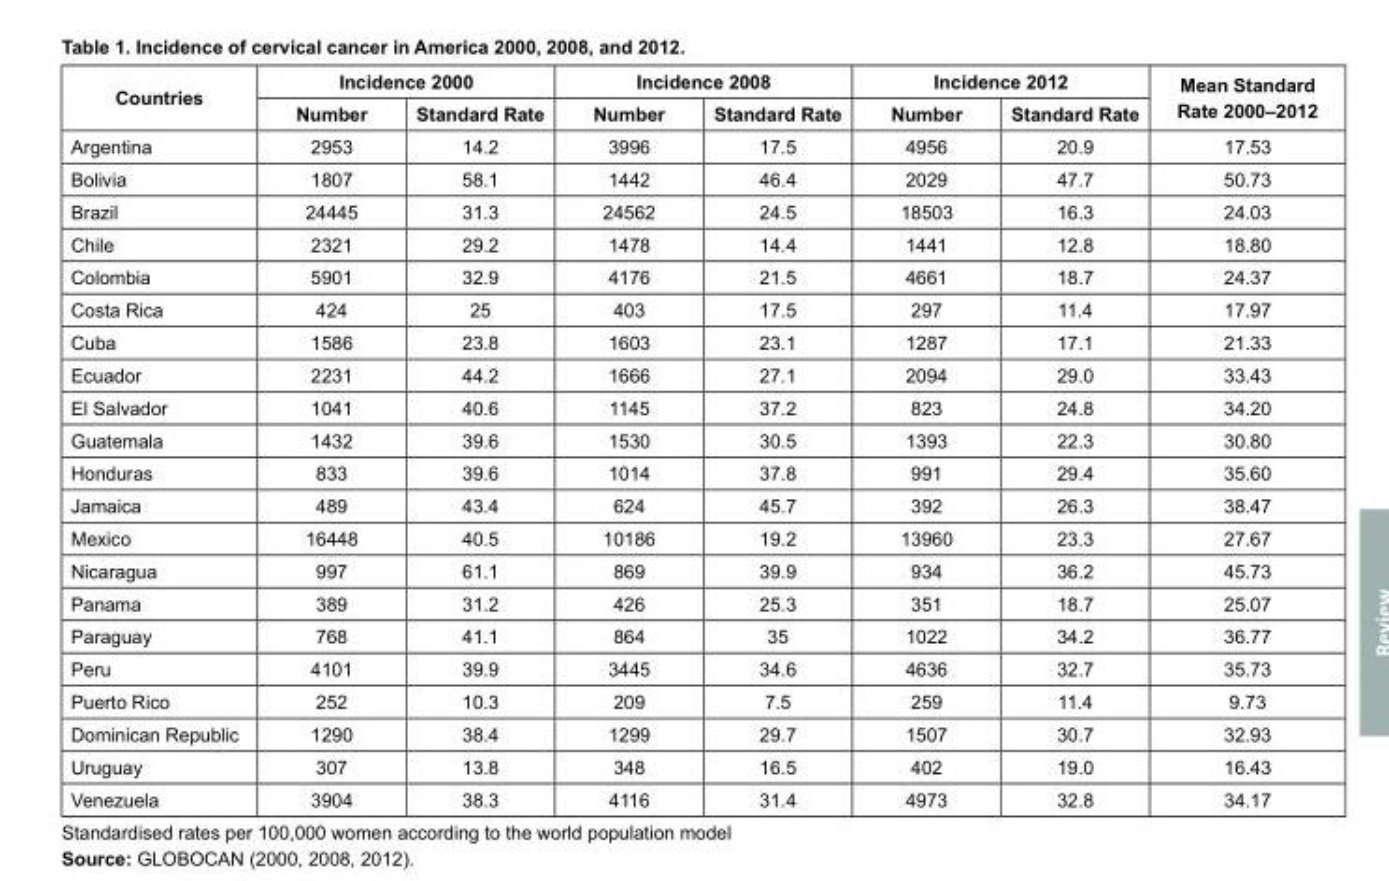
<table><thead><tr><td rowspan="2">Countries</td><td colspan="2">Incidence 2000</td><td colspan="2">Incidence 2008</td><td colspan="2">Incidence 2012</td><td rowspan="2">Mean Standard Rate 2000–2012</td></tr><tr><td>Number</td><td>Standard Rate</td><td>Number</td><td>Standard Rate</td><td>Number</td><td>Standard Rate</td></tr></thead><tbody><tr><td>Argentina</td><td>2953</td><td>14.2</td><td>3996</td><td>17.5</td><td>4956</td><td>20.9</td><td>17.53</td></tr><tr><td>Bolivia</td><td>1807</td><td>58.1</td><td>1442</td><td>46.4</td><td>2029</td><td>47.7</td><td>50.73</td></tr><tr><td>Brazil</td><td>24445</td><td>31.3</td><td>24562</td><td>24.5</td><td>18503</td><td>16.3</td><td>24.03</td></tr><tr><td>Chile</td><td>2321</td><td>29.2</td><td>1478</td><td>14.4</td><td>1441</td><td>12.8</td><td>18.80</td></tr><tr><td>Colombia</td><td>5901</td><td>32.9</td><td>4176</td><td>21.5</td><td>4661</td><td>18.7</td><td>24.37</td></tr><tr><td>Costa Rica</td><td>424</td><td>25</td><td>403</td><td>17.5</td><td>297</td><td>11.4</td><td>17.97</td></tr><tr><td>Cuba</td><td>1586</td><td>23.8</td><td>1603</td><td>23.1</td><td>1287</td><td>17.1</td><td>21.33</td></tr><tr><td>Ecuador</td><td>2231</td><td>44.2</td><td>1666</td><td>27.1</td><td>2094</td><td>29.0</td><td>33.43</td></tr><tr><td>El Salvador</td><td>1041</td><td>40.6</td><td>1145</td><td>37.2</td><td>823</td><td>24.8</td><td>34.20</td></tr><tr><td>Guatemala</td><td>1432</td><td>39.6</td><td>1530</td><td>30.5</td><td>1393</td><td>22.3</td><td>30.80</td></tr><tr><td>Honduras</td><td>833</td><td>39.6</td><td>1014</td><td>37.8</td><td>991</td><td>29.4</td><td>35.60</td></tr><tr><td>Jamaica</td><td>489</td><td>43.4</td><td>624</td><td>45.7</td><td>392</td><td>26.3</td><td>38.47</td></tr><tr><td>Mexico</td><td>16448</td><td>40.5</td><td>10186</td><td>19.2</td><td>13960</td><td>23.3</td><td>27.67</td></tr><tr><td>Nicaragua</td><td>997</td><td>61.1</td><td>869</td><td>39.9</td><td>934</td><td>36.2</td><td>45.73</td></tr><tr><td>Panama</td><td>389</td><td>31.2</td><td>426</td><td>25.3</td><td>351</td><td>18.7</td><td>25.07</td></tr><tr><td>Paraguay</td><td>768</td><td>41.1</td><td>864</td><td>35</td><td>1022</td><td>34.2</td><td>36.77</td></tr><tr><td>Peru</td><td>4101</td><td>39.9</td><td>3445</td><td>34.6</td><td>4636</td><td>32.7</td><td>35.73</td></tr><tr><td>Puerto Rico</td><td>252</td><td>10.3</td><td>209</td><td>7.5</td><td>259</td><td>11.4</td><td>9.73</td></tr><tr><td>Dominican Republic</td><td>1290</td><td>38.4</td><td>1299</td><td>29.7</td><td>1507</td><td>30.7</td><td>32.93</td></tr><tr><td>Uruguay</td><td>307</td><td>13.8</td><td>348</td><td>16.5</td><td>402</td><td>19.0</td><td>16.43</td></tr><tr><td>Venezuela</td><td>3904</td><td>38.3</td><td>4116</td><td>31.4</td><td>4973</td><td>32.8</td><td>34.17</td></tr></tbody></table>